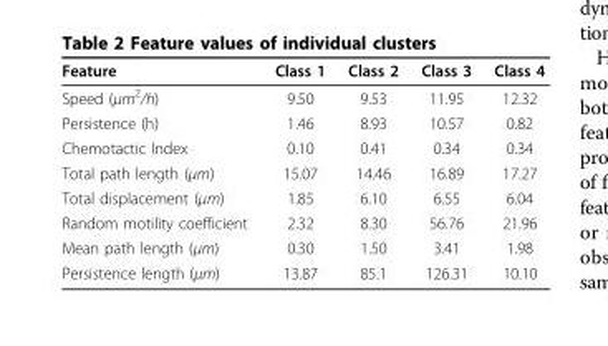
<table><thead><tr><td>Feature</td><td>Class 1</td><td>Class 2</td><td>Class 3</td><td>Class 4</td></tr></thead><tbody><tr><td>Speed (µm<sup>2</sup>/h)</td><td>9.50</td><td>9.53</td><td>11.95</td><td>12.32</td></tr><tr><td>Persistence (h)</td><td>1.46</td><td>8.93</td><td>10.57</td><td>0.82</td></tr><tr><td>Chemotactic Index</td><td>0.10</td><td>0.41</td><td>0.34</td><td>0.34</td></tr><tr><td>Total path length (µm)</td><td>15.07</td><td>14.46</td><td>16.89</td><td>17.27</td></tr><tr><td>Total displacement (µm)</td><td>1.85</td><td>6.10</td><td>6.55</td><td>6.04</td></tr><tr><td>Random motility coefficient</td><td>2.32</td><td>8.30</td><td>56.76</td><td>21.96</td></tr><tr><td>Mean path length (µm)</td><td>0.30</td><td>1.50</td><td>3.41</td><td>1.98</td></tr><tr><td>Persistence length (µm)</td><td>13.87</td><td>85.1</td><td>126.31</td><td>10.10</td></tr></tbody></table>